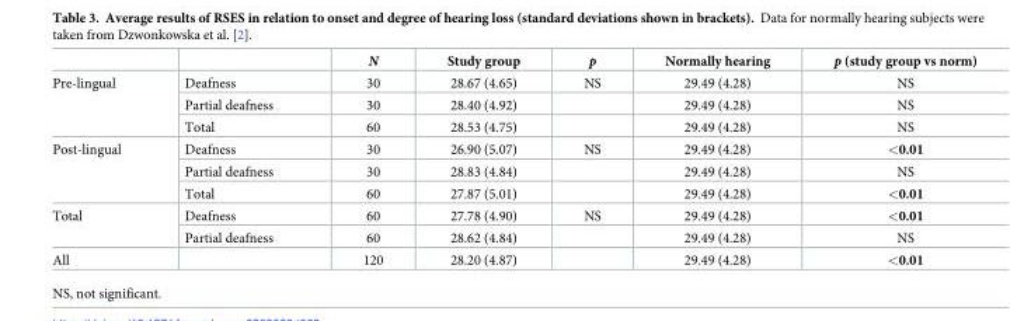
<table><thead><tr><td></td><td></td><td>N</td><td>Study group</td><td>p</td><td>Normally hearing</td><td>p (study group vs norm)</td></tr></thead><tbody><tr><td rowspan="3">Pre-lingual</td><td>Deafness</td><td>30</td><td>28.67 (4.65)</td><td>NS</td><td>29.49 (4.28)</td><td>NS</td></tr><tr><td>Partial deafness</td><td>30</td><td>28.40 (4.92)</td><td></td><td>29.49 (4.28)</td><td>NS</td></tr><tr><td>Total</td><td>60</td><td>28.53 (4.75)</td><td></td><td>29.49 (4.28)</td><td>NS</td></tr><tr><td rowspan="3">Post-lingual</td><td>Deafness</td><td>30</td><td>26.90 (5.07)</td><td>NS</td><td>29.49 (4.28)</td><td>&lt;0.01</td></tr><tr><td>Partial deafness</td><td>30</td><td>28.83 (4.84)</td><td></td><td>29.49 (4.28)</td><td>NS</td></tr><tr><td>Total</td><td>60</td><td>27.87 (5.01)</td><td></td><td>29.49 (4.28)</td><td>&lt;0.01</td></tr><tr><td rowspan="2">Total</td><td>Deafness</td><td>60</td><td>27.78 (4.90)</td><td>NS</td><td>29.49 (4.28)</td><td>&lt;0.01</td></tr><tr><td>Partial deafness</td><td>60</td><td>28.62 (4.84)</td><td></td><td>29.49 (4.28)</td><td>NS</td></tr><tr><td>All</td><td></td><td>120</td><td>28.20 (4.87)</td><td></td><td>29.49 (4.28)</td><td>&lt;0.01</td></tr></tbody></table>